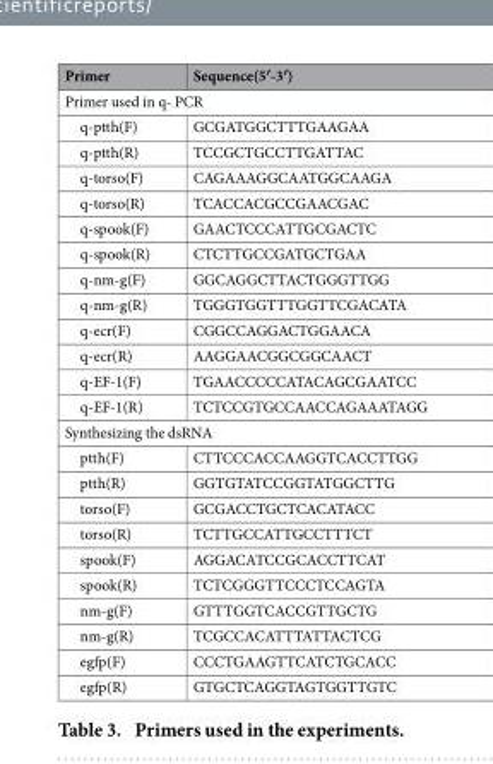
<table><thead><tr><td>Primer</td><td>Sequence(5′-3′)</td></tr></thead><tbody><tr><td colspan="2">Primer used in q- PCR</td></tr><tr><td>q-ptth(F)</td><td>GCGATGGCTTTGAAGAA</td></tr><tr><td>q-ptth(R)</td><td>TCCGCTGCCTTGATTAC</td></tr><tr><td>q-torso(F)</td><td>CAGAAAGGCAATGGCAAGA</td></tr><tr><td>q-torso(R)</td><td>TCACCACGCCGAACGAC</td></tr><tr><td>q-spook(F)</td><td>GAACTCCCATTGCGACTC</td></tr><tr><td>q-spook(R)</td><td>CTCTTGCCGATGCTGAA</td></tr><tr><td>q-nm-g(F)</td><td>GGCAGGCTTACTGGGTTGG</td></tr><tr><td>q-nm-g(R)</td><td>TGGGTGGTTTGGTTCGACATA</td></tr><tr><td>q-ecr(F)</td><td>CGGCCAGGACTGGAACA</td></tr><tr><td>q-ecr(R)</td><td>AAGGAACGGCGGCAACT</td></tr><tr><td>q-EF-1(F)</td><td>TGAACCCCCATACAGCGAATCC</td></tr><tr><td>q-EF-1(R)</td><td>TCTCCGTGCCAACCAGAAATAGG</td></tr><tr><td colspan="2">Synthesizing the dsRNA</td></tr><tr><td>ptth(F)</td><td>CTTCCCACCAAGGTCACCTTGG</td></tr><tr><td>ptth(R)</td><td>GGTGTATCCGGTATGGCTTG</td></tr><tr><td>torso(F)</td><td>GCGACCTGCTCACATACC</td></tr><tr><td>torso(R)</td><td>TCTTGCCATTGCCTTTCT</td></tr><tr><td>spook(F)</td><td>AGGACATCCGCACCTTCAT</td></tr><tr><td>spook(R)</td><td>TCTCGGGTTCCCTCCAGTA</td></tr><tr><td>nm-g(F)</td><td>GTTTGGTCACCGTTGCTG</td></tr><tr><td>nm-g(R)</td><td>TCGCCACATTTATTACTCG</td></tr><tr><td>egfp(F)</td><td>CCCTGAAGTTCATCTGCACC</td></tr><tr><td>egfp(R)</td><td>GTGCTCAGGTAGTGGTTGTC</td></tr></tbody></table>